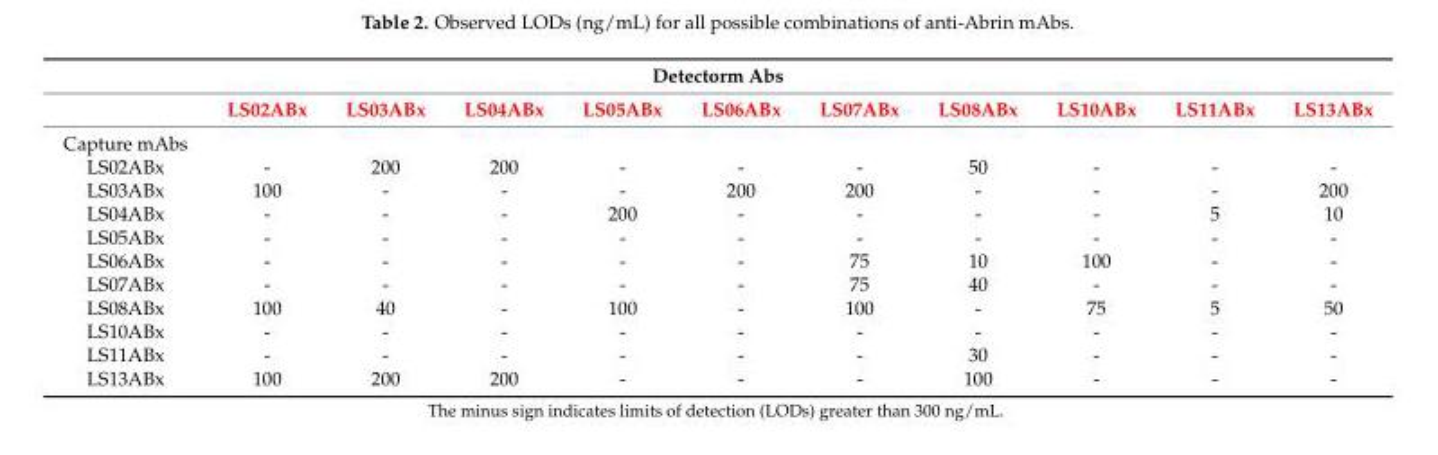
<table><thead><tr><td colspan="11">Detectorm Abs</td></tr><tr><td></td><td>LS02ABx</td><td>LS03ABx</td><td>LS04ABx</td><td>LS05ABx</td><td>LS06ABx</td><td>LS07ABx</td><td>LS08ABx</td><td>LS10ABx</td><td>LS11ABx</td><td>LS13ABx</td></tr></thead><tbody><tr><td colspan="11">Capture mAbs</td></tr><tr><td>LS02ABx</td><td>-</td><td>200</td><td>200</td><td>-</td><td>-</td><td>-</td><td>50</td><td>-</td><td>-</td><td>-</td></tr><tr><td>LS03ABx</td><td>100</td><td>-</td><td>-</td><td>-</td><td>200</td><td>200</td><td>-</td><td>-</td><td>-</td><td>200</td></tr><tr><td>LS04ABx</td><td>-</td><td>-</td><td>-</td><td>200</td><td>-</td><td>-</td><td>-</td><td>-</td><td>5</td><td>10</td></tr><tr><td>LS05ABx</td><td>-</td><td>-</td><td>-</td><td>-</td><td>-</td><td>-</td><td>-</td><td>-</td><td>-</td><td>-</td></tr><tr><td>LS06ABx</td><td>-</td><td>-</td><td>-</td><td>-</td><td>-</td><td>75</td><td>10</td><td>100</td><td>-</td><td>-</td></tr><tr><td>LS07ABx</td><td>-</td><td>-</td><td>-</td><td>-</td><td>-</td><td>75</td><td>40</td><td>-</td><td>-</td><td>-</td></tr><tr><td>LS08ABx</td><td>100</td><td>40</td><td>-</td><td>100</td><td>-</td><td>100</td><td>-</td><td>75</td><td>5</td><td>50</td></tr><tr><td>LS10ABx</td><td>-</td><td>-</td><td>-</td><td>-</td><td>-</td><td>-</td><td>-</td><td>-</td><td>-</td><td>-</td></tr><tr><td>LS11ABx</td><td>-</td><td>-</td><td>-</td><td>-</td><td>-</td><td>-</td><td>30</td><td>-</td><td>-</td><td>-</td></tr><tr><td>LS13ABx</td><td>100</td><td>200</td><td>200</td><td>-</td><td>-</td><td>-</td><td>100</td><td>-</td><td>-</td><td>-</td></tr></tbody></table>